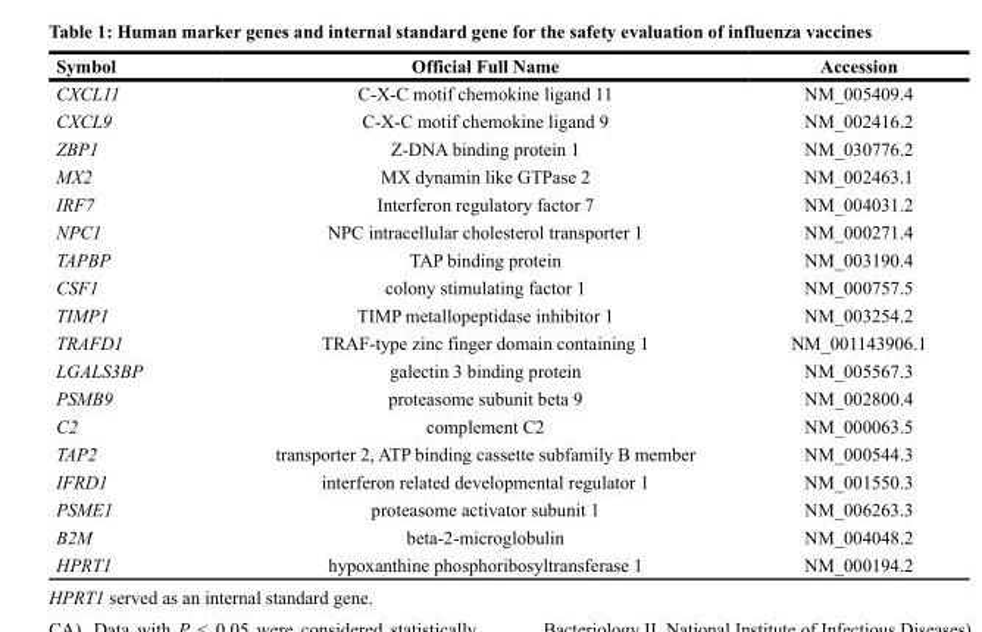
<table><thead><tr><td>Symbol</td><td>Official Full Name</td><td>Accession</td></tr></thead><tbody><tr><td>CXCL11</td><td>C-X-C motif chemokine ligand 11</td><td>NM_005409.4</td></tr><tr><td>CXCL9</td><td>C-X-C motif chemokine ligand 9</td><td>NM_002416.2</td></tr><tr><td>ZBP1</td><td>Z-DNA binding protein 1</td><td>NM_030776.2</td></tr><tr><td>MX2</td><td>MX dynamin like GTPase 2</td><td>NM_002463.1</td></tr><tr><td>IRF7</td><td>Interferon regulatory factor 7</td><td>NM_004031.2</td></tr><tr><td>NPC1</td><td>NPC intracellular cholesterol transporter 1</td><td>NM_000271.4</td></tr><tr><td>TAPBP</td><td>TAP binding protein</td><td>NM_003190.4</td></tr><tr><td>CSF1</td><td>colony stimulating factor 1</td><td>NM_000757.5</td></tr><tr><td>TIMP1</td><td>TIMP metallopeptidase inhibitor 1</td><td>NM_003254.2</td></tr><tr><td>TRAFD1</td><td>TRAF-type zinc finger domain containing 1</td><td>NM_001143906.1</td></tr><tr><td>LGALS3BP</td><td>galectin 3 binding protein</td><td>NM_005567.3</td></tr><tr><td>PSMB9</td><td>proteasome subunit beta 9</td><td>NM_002800.4</td></tr><tr><td>C2</td><td>complement C2</td><td>NM_000063.5</td></tr><tr><td>TAP2</td><td>transporter 2, ATP binding cassette subfamily B member</td><td>NM_000544.3</td></tr><tr><td>IFRD1</td><td>interferon related developmental regulator 1</td><td>NM_001550.3</td></tr><tr><td>PSME1</td><td>proteasome activator subunit 1</td><td>NM_006263.3</td></tr><tr><td>B2M</td><td>beta-2-microglobulin</td><td>NM_004048.2</td></tr><tr><td>HPRT1</td><td>hypoxanthine phosphoribosyltransferase 1</td><td>NM_000194.2</td></tr></tbody></table>